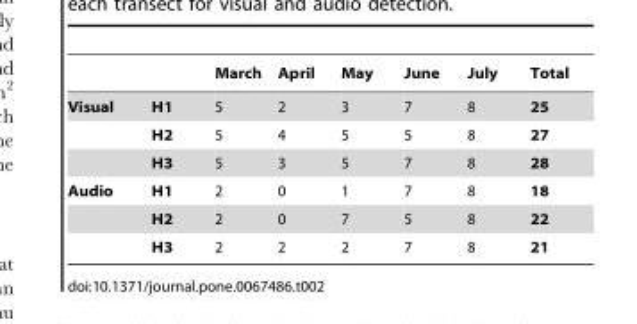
<table><thead><tr><td></td><td></td><td>March</td><td>April</td><td>May</td><td>June</td><td>July</td><td>Total</td></tr></thead><tbody><tr><td rowspan="3">Visual</td><td>H1</td><td>5</td><td>2</td><td>3</td><td>7</td><td>8</td><td>25</td></tr><tr><td>H2</td><td>5</td><td>4</td><td>5</td><td>5</td><td>8</td><td>27</td></tr><tr><td>H3</td><td>5</td><td>3</td><td>5</td><td>7</td><td>8</td><td>28</td></tr><tr><td rowspan="3">Audio</td><td>H1</td><td>2</td><td>0</td><td>1</td><td>7</td><td>8</td><td>18</td></tr><tr><td>H2</td><td>2</td><td>0</td><td>7</td><td>5</td><td>8</td><td>22</td></tr><tr><td>H3</td><td>2</td><td>2</td><td>2</td><td>7</td><td>8</td><td>21</td></tr></tbody></table>